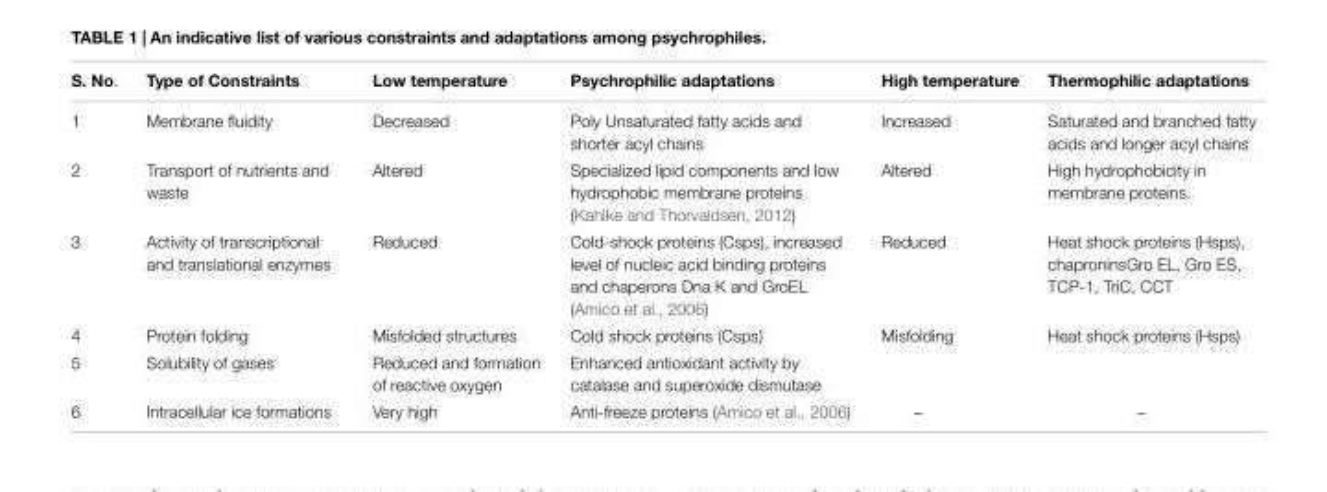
<table><thead><tr><td>S. No.</td><td>Type of Constraints</td><td>Low temperature</td><td>Psychrophilic adaptations</td><td>High temperature</td><td>Thermophilic adaptations</td></tr></thead><tbody><tr><td>1</td><td>Membrane fluidity</td><td>Decreased</td><td>Poly Unsaturated fatty acids and shorter acyl chains</td><td>Increased</td><td>Saturated and branched fatty acids and longer acyl chains</td></tr><tr><td>2</td><td>Transport of nutrients and waste</td><td>Altered</td><td>Specialized lipid components and low hydrophobic membrane proteins (Kahlke and Thorvaldsen, 2012)</td><td>Altered</td><td>High hydrophobicity in membrane proteins.</td></tr><tr><td>3</td><td>Activity of transcriptional and translational enzymes</td><td>Reduced</td><td>Cold-shock proteins (Csps), increased level of nucleic acid binding proteins and chaperons Dna K and GroEL (Amico et al., 2006)</td><td>Reduced</td><td>Heat shock proteins (Hsps), chaproninsGro EL, Gro ES, TCP-1, TriC, CCT</td></tr><tr><td>4</td><td>Protein folding</td><td>Misfolded structures</td><td>Cold shock proteins (Csps)</td><td>Misfolding</td><td>Heat shock proteins (Hsps)</td></tr><tr><td>5</td><td>Solubility of gases</td><td>Reduced and formation of reactive oxygen</td><td>Enhanced antioxidant activity by catalase and superoxide dismutase</td><td></td><td></td></tr><tr><td>6</td><td>Intracellular ice formations</td><td>Very high</td><td>Anti-freeze proteins (Amico et al., 2006)</td><td>–</td><td>–</td></tr></tbody></table>